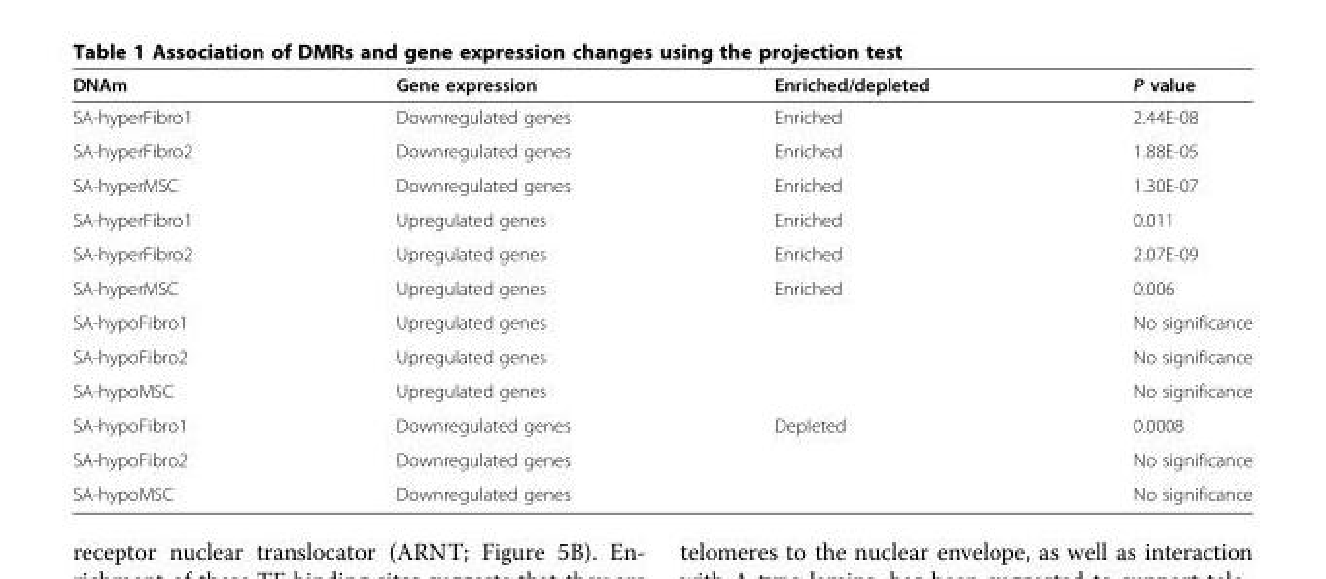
<table><thead><tr><td>DNAm</td><td>Gene expression</td><td>Enriched/depleted</td><td>P value</td></tr></thead><tbody><tr><td>SA-hyperFibro1</td><td>Downregulated genes</td><td>Enriched</td><td>2.44E-08</td></tr><tr><td>SA-hyperFibro2</td><td>Downregulated genes</td><td>Enriched</td><td>1.88E-05</td></tr><tr><td>SA-hyperMSC</td><td>Downregulated genes</td><td>Enriched</td><td>1.30E-07</td></tr><tr><td>SA-hyperFibro1</td><td>Upregulated genes</td><td>Enriched</td><td>0.011</td></tr><tr><td>SA-hyperFibro2</td><td>Upregulated genes</td><td>Enriched</td><td>2.07E-09</td></tr><tr><td>SA-hyperMSC</td><td>Upregulated genes</td><td>Enriched</td><td>0.006</td></tr><tr><td>SA-hypoFibro1</td><td>Upregulated genes</td><td></td><td>No significance</td></tr><tr><td>SA-hypoFibro2</td><td>Upregulated genes</td><td></td><td>No significance</td></tr><tr><td>SA-hypoMSC</td><td>Upregulated genes</td><td></td><td>No significance</td></tr><tr><td>SA-hypoFibro1</td><td>Downregulated genes</td><td>Depleted</td><td>0.0008</td></tr><tr><td>SA-hypoFibro2</td><td>Downregulated genes</td><td></td><td>No significance</td></tr><tr><td>SA-hypoMSC</td><td>Downregulated genes</td><td></td><td>No significance</td></tr></tbody></table>